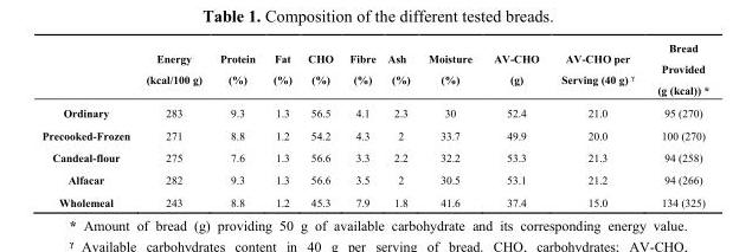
<table><thead><tr><td></td><td>Energy (kcal/100 g)</td><td>Protein (%)</td><td>Fat (%)</td><td>CHO (%)</td><td>Fibre (%)</td><td>Ash (%)</td><td>Moisture (%)</td><td>AV-CHO (g)</td><td>AV-CHO per Serving (40 g) <sup>γ</sup></td><td>Bread Provided (g (kcal)) *</td></tr></thead><tbody><tr><td>Ordinary</td><td>283</td><td>9.3</td><td>1.3</td><td>56.5</td><td>4.1</td><td>2.3</td><td>30</td><td>52.4</td><td>21.0</td><td>95 (270)</td></tr><tr><td>Precooked-Frozen</td><td>271</td><td>8.8</td><td>1.2</td><td>54.2</td><td>4.3</td><td>2</td><td>33.7</td><td>49.9</td><td>20.0</td><td>100 (270)</td></tr><tr><td>Candeal-flour</td><td>275</td><td>7.6</td><td>1.3</td><td>56.6</td><td>3.3</td><td>2.2</td><td>32.2</td><td>53.3</td><td>21.3</td><td>94 (258)</td></tr><tr><td>Alfacar</td><td>282</td><td>9.3</td><td>1.3</td><td>56.6</td><td>3.5</td><td>2</td><td>30.5</td><td>53.1</td><td>21.2</td><td>94 (266)</td></tr><tr><td>Wholemeal</td><td>243</td><td>8.8</td><td>1.2</td><td>45.3</td><td>7.9</td><td>1.8</td><td>41.6</td><td>37.4</td><td>15.0</td><td>134 (325)</td></tr></tbody></table>